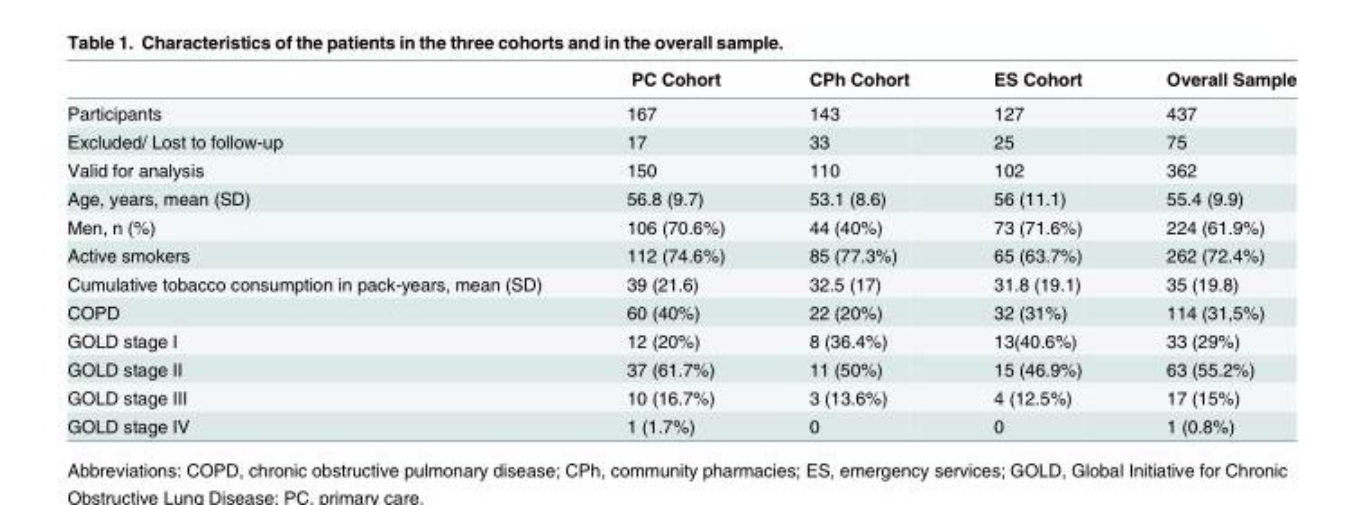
<table><thead><tr><td></td><td>PC Cohort</td><td>CPh Cohort</td><td>ES Cohort</td><td>Overall Sample</td></tr></thead><tbody><tr><td>Participants</td><td>167</td><td>143</td><td>127</td><td>437</td></tr><tr><td>Excluded/ Lost to follow-up</td><td>17</td><td>33</td><td>25</td><td>75</td></tr><tr><td>Valid for analysis</td><td>150</td><td>110</td><td>102</td><td>362</td></tr><tr><td>Age, years, mean (SD)</td><td>56.8 (9.7)</td><td>53.1 (8.6)</td><td>56 (11.1)</td><td>55.4 (9.9)</td></tr><tr><td>Men, n (%)</td><td>106 (70.6%)</td><td>44 (40%)</td><td>73 (71.6%)</td><td>224 (61.9%)</td></tr><tr><td>Active smokers</td><td>112 (74.6%)</td><td>85 (77.3%)</td><td>65 (63.7%)</td><td>262 (72.4%)</td></tr><tr><td>Cumulative tobacco consumption in pack-years, mean (SD)</td><td>39 (21.6)</td><td>32.5 (17)</td><td>31.8 (19.1)</td><td>35 (19.8)</td></tr><tr><td>COPD</td><td>60 (40%)</td><td>22 (20%)</td><td>32 (31%)</td><td>114 (31,5%)</td></tr><tr><td>GOLD stage I</td><td>12 (20%)</td><td>8 (36.4%)</td><td>13(40.6%)</td><td>33 (29%)</td></tr><tr><td>GOLD stage II</td><td>37 (61.7%)</td><td>11 (50%)</td><td>15 (46.9%)</td><td>63 (55.2%)</td></tr><tr><td>GOLD stage III</td><td>10 (16.7%)</td><td>3 (13.6%)</td><td>4 (12.5%)</td><td>17 (15%)</td></tr><tr><td>GOLD stage IV</td><td>1 (1.7%)</td><td>0</td><td>0</td><td>1 (0.8%)</td></tr></tbody></table>